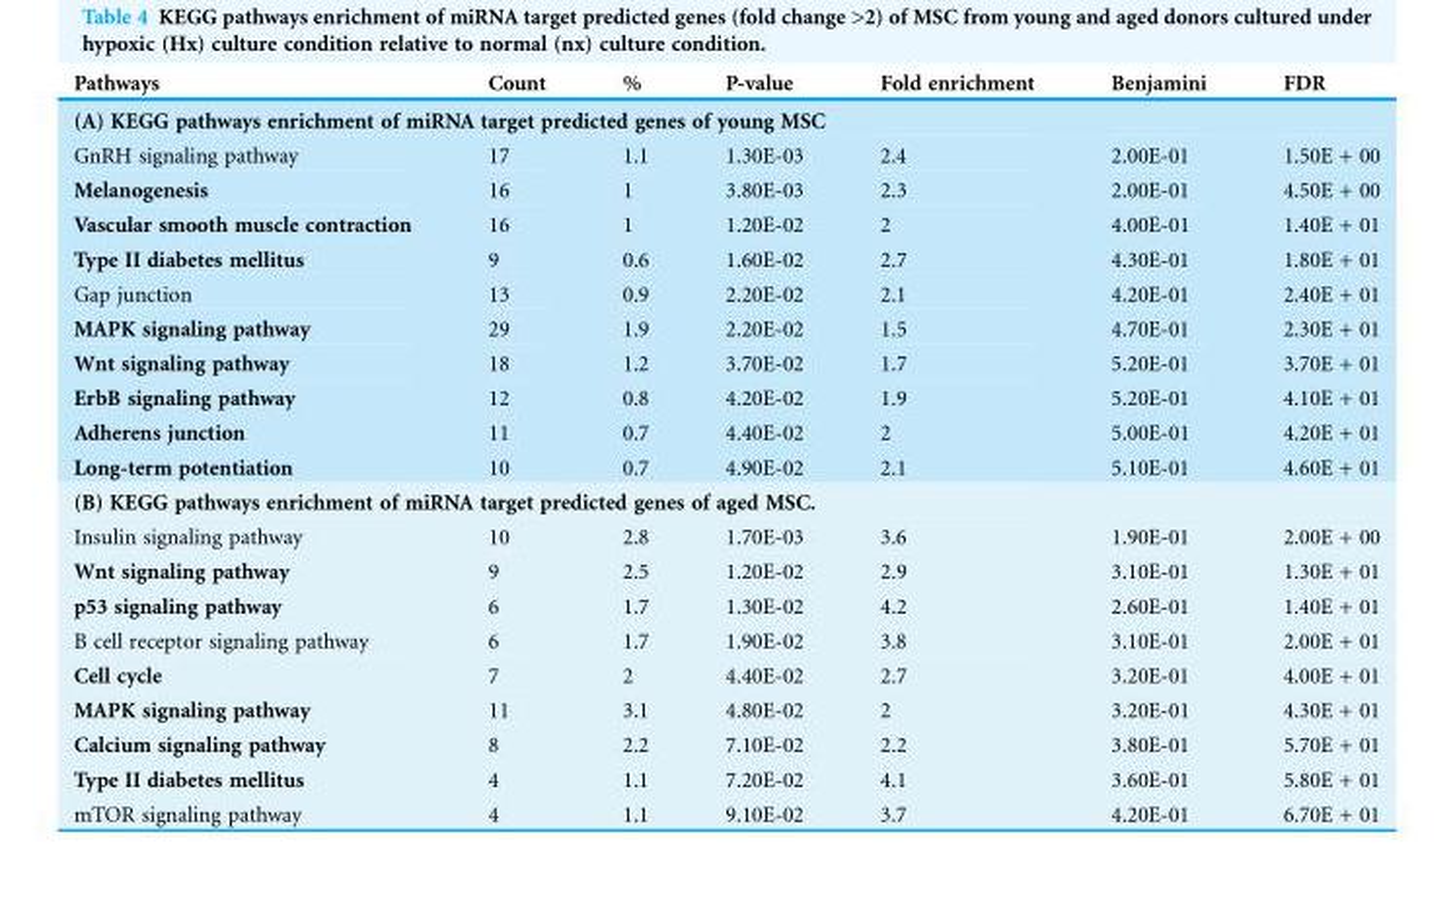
<table><thead><tr><td>Pathways</td><td>Count</td><td>%</td><td>P-value</td><td>Fold enrichment</td><td>Benjamini</td><td>FDR</td></tr></thead><tbody><tr><td colspan="7">(A) KEGG pathways enrichment of miRNA target predicted genes of young MSC</td></tr><tr><td>GnRH signaling pathway</td><td>17</td><td>1.1</td><td>1.30E-03</td><td>2.4</td><td>2.00E-01</td><td>1.50E + 00</td></tr><tr><td>Melanogenesis</td><td>16</td><td>1</td><td>3.80E-03</td><td>2.3</td><td>2.00E-01</td><td>4.50E + 00</td></tr><tr><td>Vascular smooth muscle contraction</td><td>16</td><td>1</td><td>1.20E-02</td><td>2</td><td>4.00E-01</td><td>1.40E + 01</td></tr><tr><td>Type II diabetes mellitus</td><td>9</td><td>0.6</td><td>1.60E-02</td><td>2.7</td><td>4.30E-01</td><td>1.80E + 01</td></tr><tr><td>Gap junction</td><td>13</td><td>0.9</td><td>2.20E-02</td><td>2.1</td><td>4.20E-01</td><td>2.40E + 01</td></tr><tr><td>MAPK signaling pathway</td><td>29</td><td>1.9</td><td>2.20E-02</td><td>1.5</td><td>4.70E-01</td><td>2.30E + 01</td></tr><tr><td>Wnt signaling pathway</td><td>18</td><td>1.2</td><td>3.70E-02</td><td>1.7</td><td>5.20E-01</td><td>3.70E + 01</td></tr><tr><td>ErbB signaling pathway</td><td>12</td><td>0.8</td><td>4.20E-02</td><td>1.9</td><td>5.20E-01</td><td>4.10E + 01</td></tr><tr><td>Adherens junction</td><td>11</td><td>0.7</td><td>4.40E-02</td><td>2</td><td>5.00E-01</td><td>4.20E + 01</td></tr><tr><td>Long-term potentiation</td><td>10</td><td>0.7</td><td>4.90E-02</td><td>2.1</td><td>5.10E-01</td><td>4.60E + 01</td></tr><tr><td colspan="7">(B) KEGG pathways enrichment of miRNA target predicted genes of aged MSC.</td></tr><tr><td>Insulin signaling pathway</td><td>10</td><td>2.8</td><td>1.70E-03</td><td>3.6</td><td>1.90E-01</td><td>2.00E + 00</td></tr><tr><td>Wnt signaling pathway</td><td>9</td><td>2.5</td><td>1.20E-02</td><td>2.9</td><td>3.10E-01</td><td>1.30E + 01</td></tr><tr><td>p53 signaling pathway</td><td>6</td><td>1.7</td><td>1.30E-02</td><td>4.2</td><td>2.60E-01</td><td>1.40E + 01</td></tr><tr><td>B cell receptor signaling pathway</td><td>6</td><td>1.7</td><td>1.90E-02</td><td>3.8</td><td>3.10E-01</td><td>2.00E + 01</td></tr><tr><td>Cell cycle</td><td>7</td><td>2</td><td>4.40E-02</td><td>2.7</td><td>3.20E-01</td><td>4.00E + 01</td></tr><tr><td>MAPK signaling pathway</td><td>11</td><td>3.1</td><td>4.80E-02</td><td>2</td><td>3.20E-01</td><td>4.30E + 01</td></tr><tr><td>Calcium signaling pathway</td><td>8</td><td>2.2</td><td>7.10E-02</td><td>2.2</td><td>3.80E-01</td><td>5.70E + 01</td></tr><tr><td>Type II diabetes mellitus</td><td>4</td><td>1.1</td><td>7.20E-02</td><td>4.1</td><td>3.60E-01</td><td>5.80E + 01</td></tr><tr><td>mTOR signaling pathway</td><td>4</td><td>1.1</td><td>9.10E-02</td><td>3.7</td><td>4.20E-01</td><td>6.70E + 01</td></tr></tbody></table>